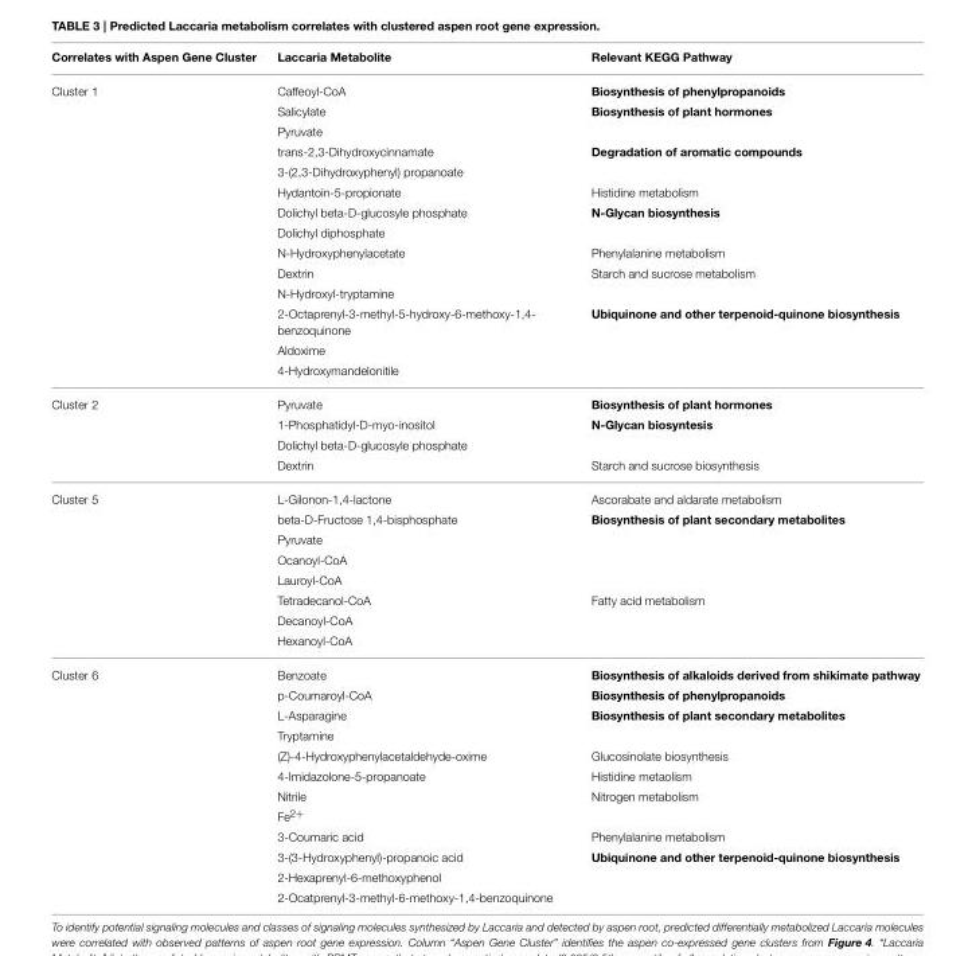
<table><thead><tr><td>Correlates with Aspen Gene Cluster</td><td>Laccaria Metabolite</td><td>Relevant KEGG Pathway</td></tr></thead><tbody><tr><td rowspan="14">Cluster 1</td><td>Caffeoyl-CoA</td><td>Biosynthesis of phenylpropanoids</td></tr><tr><td>Salicylate</td><td>Biosynthesis of plant hormones</td></tr><tr><td>Pyruvate</td><td></td></tr><tr><td>trans-2,3-Dihydroxycinnamate</td><td>Degradation of aromatic compounds</td></tr><tr><td>3-(2,3-Dihydroxyphenyl) propanoate</td><td></td></tr><tr><td>Hydantoin-5-propionate</td><td>Histidine metabolism</td></tr><tr><td>Dolichyl beta-D-glucosyle phosphate</td><td>N-Glycan biosynthesis</td></tr><tr><td>Dolichyl diphosphate</td><td></td></tr><tr><td>N-Hydroxyphenylacetate</td><td>Phenylalanine metabolism</td></tr><tr><td>Dextrin</td><td>Starch and sucrose metabolism</td></tr><tr><td>N-Hydroxyl-tryptamine</td><td></td></tr><tr><td>2-Octaprenyl-3-methyl-5-hydroxy-6-methoxy-1,4- benzoquinone</td><td>Ubiquinone and other terpenoid-quinone biosynthesis</td></tr><tr><td>Aldoxime</td><td></td></tr><tr><td>4-Hydroxymandelonitile</td><td></td></tr><tr><td rowspan="4">Cluster 2</td><td>Pyruvate</td><td>Biosynthesis of plant hormones</td></tr><tr><td>1-Phosphatidyl-D-myo-inositol</td><td>N-Glycan biosyntesis</td></tr><tr><td>Dolichyl beta-D-glucosyle phosphate</td><td></td></tr><tr><td>Dextrin</td><td>Starch and sucrose biosynthesis</td></tr><tr><td rowspan="8">Cluster 5</td><td>L-Gilonon-1,4-lactone</td><td>Ascorabate and aldarate metabolism</td></tr><tr><td>beta-D-Fructose 1,4-bisphosphate</td><td>Biosynthesis of plant secondary metabolites</td></tr><tr><td>Pyruvate</td><td></td></tr><tr><td>Ocanoyl-CoA</td><td></td></tr><tr><td>Lauroyl-CoA</td><td></td></tr><tr><td>Tetradecanol-CoA</td><td>Fatty acid metabolism</td></tr><tr><td>Decanoyl-CoA</td><td></td></tr><tr><td>Hexanoyl-CoA</td><td></td></tr><tr><td rowspan="12">Cluster 6</td><td>Benzoate</td><td>Biosynthesis of alkaloids derived from shikimate pathway</td></tr><tr><td>p-Coumaroyl-CoA</td><td>Biosynthesis of phenylpropanoids</td></tr><tr><td>L-Asparagine</td><td>Biosynthesis of plant secondary metabolites</td></tr><tr><td>Tryptamine</td><td></td></tr><tr><td>(Z)-4-Hydroxyphenylacetaldehyde-oxime</td><td>Glucosinolate biosynthesis</td></tr><tr><td>4-Imidazolone-5-propanoate</td><td>Histidine metaolism</td></tr><tr><td>Nitrile</td><td>Nitrogen metabolism</td></tr><tr><td>Fe<sup>2+</sup></td><td></td></tr><tr><td>3-Coumaric acid</td><td>Phenylalanine metabolism</td></tr><tr><td>3-(3-Hydroxyphenyl)-propanoic acid</td><td>Ubiquinone and other terpenoid-quinone biosynthesis</td></tr><tr><td>2-Hexaprenyl-6-methoxyphenol</td><td></td></tr><tr><td>2-Ocatprenyl-3-methyl-6-methoxy-1,4-benzoquinone</td><td></td></tr></tbody></table>